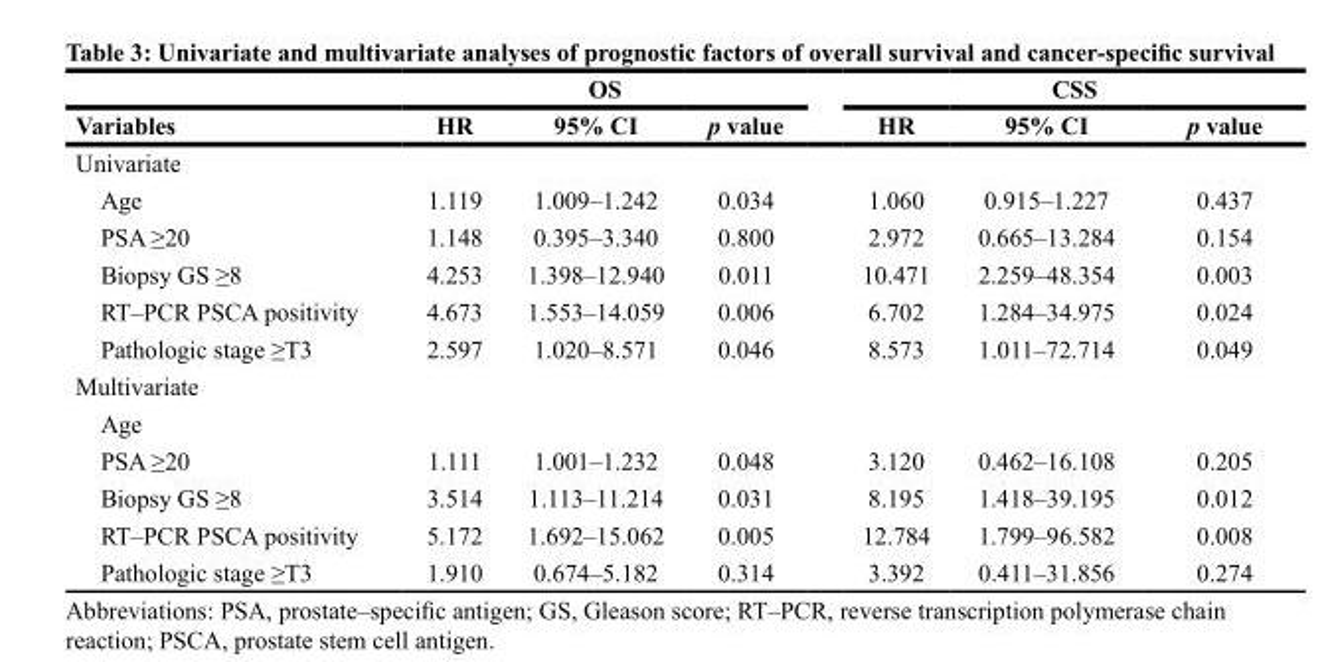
<table><thead><tr><td rowspan="2">Variables</td><td colspan="3">OS</td><td colspan="3">CSS</td></tr><tr><td>HR</td><td>95% CI</td><td>p value</td><td>HR</td><td>95% CI</td><td>p value</td></tr></thead><tbody><tr><td colspan="7">Univariate</td></tr><tr><td>Age</td><td>1.119</td><td>1.009–1.242</td><td>0.034</td><td>1.060</td><td>0.915–1.227</td><td>0.437</td></tr><tr><td>PSA ≥20</td><td>1.148</td><td>0.395–3.340</td><td>0.800</td><td>2.972</td><td>0.665–13.284</td><td>0.154</td></tr><tr><td>Biopsy GS ≥8</td><td>4.253</td><td>1.398–12.940</td><td>0.011</td><td>10.471</td><td>2.259–48.354</td><td>0.003</td></tr><tr><td>RT–PCR PSCA positivity</td><td>4.673</td><td>1.553–14.059</td><td>0.006</td><td>6.702</td><td>1.284–34.975</td><td>0.024</td></tr><tr><td>Pathologic stage ≥T3</td><td>2.597</td><td>1.020–8.571</td><td>0.046</td><td>8.573</td><td>1.011–72.714</td><td>0.049</td></tr><tr><td colspan="7">Multivariate</td></tr><tr><td colspan="7">Age</td></tr><tr><td>PSA ≥20</td><td>1.111</td><td>1.001–1.232</td><td>0.048</td><td>3.120</td><td>0.462–16.108</td><td>0.205</td></tr><tr><td>Biopsy GS ≥8</td><td>3.514</td><td>1.113–11.214</td><td>0.031</td><td>8.195</td><td>1.418–39.195</td><td>0.012</td></tr><tr><td>RT–PCR PSCA positivity</td><td>5.172</td><td>1.692–15.062</td><td>0.005</td><td>12.784</td><td>1.799–96.582</td><td>0.008</td></tr><tr><td>Pathologic stage ≥T3</td><td>1.910</td><td>0.674–5.182</td><td>0.314</td><td>3.392</td><td>0.411–31.856</td><td>0.274</td></tr></tbody></table>